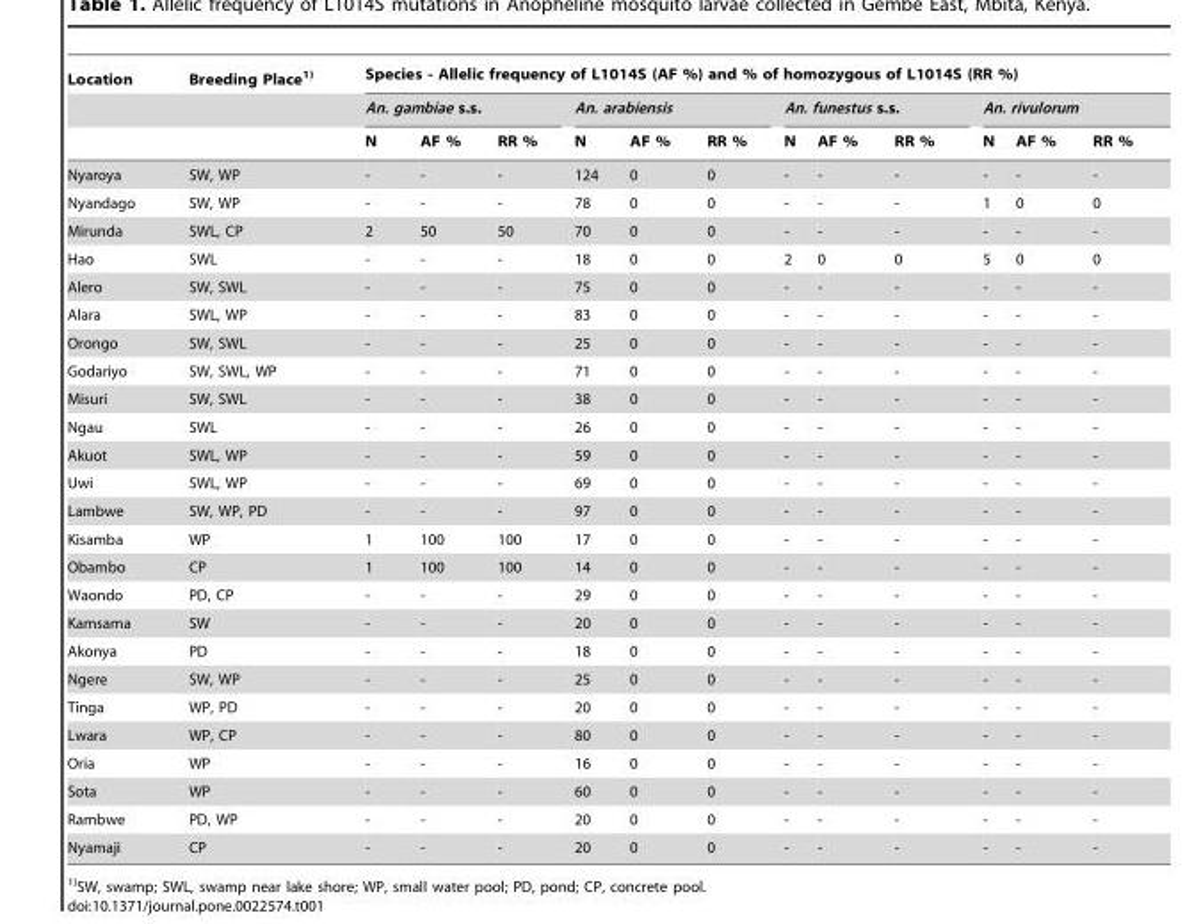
<table><thead><tr><td rowspan="3">Location</td><td rowspan="3">Breeding Place1)</td><td colspan="12">Species - Allelic frequency of L1014S (AF %) and % of homozygous of L1014S (RR %)</td></tr><tr><td colspan="3">An. gambiae s.s.</td><td colspan="3">An. arabiensis</td><td colspan="3">An. funestus s.s.</td><td colspan="3">An. rivulorum</td></tr><tr><td>N</td><td>AF %</td><td>RR %</td><td>N</td><td>AF %</td><td>RR %</td><td>N</td><td>AF %</td><td>RR %</td><td>N</td><td>AF %</td><td>RR %</td></tr></thead><tbody><tr><td>Nyaroya</td><td>SW, WP</td><td>-</td><td>-</td><td>-</td><td>124</td><td>0</td><td>0</td><td>-</td><td>-</td><td>-</td><td>-</td><td>-</td><td>-</td></tr><tr><td>Nyandago</td><td>SW, WP</td><td>-</td><td>-</td><td>-</td><td>78</td><td>0</td><td>0</td><td>-</td><td>-</td><td>-</td><td>1</td><td>0</td><td>0</td></tr><tr><td>Mirunda</td><td>SWL, CP</td><td>2</td><td>50</td><td>50</td><td>70</td><td>0</td><td>0</td><td>-</td><td>-</td><td>-</td><td>-</td><td>-</td><td>-</td></tr><tr><td>Hao</td><td>SWL</td><td>-</td><td>-</td><td>-</td><td>18</td><td>0</td><td>0</td><td>2</td><td>0</td><td>0</td><td>5</td><td>0</td><td>0</td></tr><tr><td>Alero</td><td>SW, SWL</td><td>-</td><td>-</td><td>-</td><td>75</td><td>0</td><td>0</td><td>-</td><td>-</td><td>-</td><td>-</td><td>-</td><td>-</td></tr><tr><td>Alara</td><td>SWL, WP</td><td>-</td><td>-</td><td>-</td><td>83</td><td>0</td><td>0</td><td>-</td><td>-</td><td>-</td><td>-</td><td>-</td><td>-</td></tr><tr><td>Orongo</td><td>SW, SWL</td><td>-</td><td>-</td><td>-</td><td>25</td><td>0</td><td>0</td><td>-</td><td>-</td><td>-</td><td>-</td><td>-</td><td>-</td></tr><tr><td>Godariyo</td><td>SW, SWL, WP</td><td>-</td><td>-</td><td>-</td><td>71</td><td>0</td><td>0</td><td>-</td><td>-</td><td>-</td><td>-</td><td>-</td><td>-</td></tr><tr><td>Misuri</td><td>SW, SWL</td><td>-</td><td>-</td><td>-</td><td>38</td><td>0</td><td>0</td><td>-</td><td>-</td><td>-</td><td>-</td><td>-</td><td>-</td></tr><tr><td>Ngau</td><td>SWL</td><td>-</td><td>-</td><td>-</td><td>26</td><td>0</td><td>0</td><td>-</td><td>-</td><td>-</td><td>-</td><td>-</td><td>-</td></tr><tr><td>Akuot</td><td>SWL, WP</td><td>-</td><td>-</td><td>-</td><td>59</td><td>0</td><td>0</td><td>-</td><td>-</td><td>-</td><td>-</td><td>-</td><td>-</td></tr><tr><td>Uwi</td><td>SWL, WP</td><td>-</td><td>-</td><td>-</td><td>69</td><td>0</td><td>0</td><td>-</td><td>-</td><td>-</td><td>-</td><td>-</td><td>-</td></tr><tr><td>Lambwe</td><td>SW, WP, PD</td><td>-</td><td>-</td><td>-</td><td>97</td><td>0</td><td>0</td><td>-</td><td>-</td><td>-</td><td>-</td><td>-</td><td>-</td></tr><tr><td>Kisamba</td><td>WP</td><td>1</td><td>100</td><td>100</td><td>17</td><td>0</td><td>0</td><td>-</td><td>-</td><td>-</td><td>-</td><td>-</td><td>-</td></tr><tr><td>Obambo</td><td>CP</td><td>1</td><td>100</td><td>100</td><td>14</td><td>0</td><td>0</td><td>-</td><td>-</td><td>-</td><td>-</td><td>-</td><td>-</td></tr><tr><td>Waondo</td><td>PD, CP</td><td>-</td><td>-</td><td>-</td><td>29</td><td>0</td><td>0</td><td>-</td><td>-</td><td>-</td><td>-</td><td>-</td><td>-</td></tr><tr><td>Kamsama</td><td>SW</td><td>-</td><td>-</td><td>-</td><td>20</td><td>0</td><td>0</td><td>-</td><td>-</td><td>-</td><td>-</td><td>-</td><td>-</td></tr><tr><td>Akonya</td><td>PD</td><td>-</td><td>-</td><td>-</td><td>18</td><td>0</td><td>0</td><td>-</td><td>-</td><td>-</td><td>-</td><td>-</td><td>-</td></tr><tr><td>Ngere</td><td>SW, WP</td><td>-</td><td>-</td><td>-</td><td>25</td><td>0</td><td>0</td><td>-</td><td>-</td><td>-</td><td>-</td><td>-</td><td>-</td></tr><tr><td>Tinga</td><td>WP, PD</td><td>-</td><td>-</td><td>-</td><td>20</td><td>0</td><td>0</td><td>-</td><td>-</td><td>-</td><td>-</td><td>-</td><td>-</td></tr><tr><td>Lwara</td><td>WP, CP</td><td>-</td><td>-</td><td>-</td><td>80</td><td>0</td><td>0</td><td>-</td><td>-</td><td>-</td><td>-</td><td>-</td><td>-</td></tr><tr><td>Oria</td><td>WP</td><td>-</td><td>-</td><td>-</td><td>16</td><td>0</td><td>0</td><td>-</td><td>-</td><td>-</td><td>-</td><td>-</td><td>-</td></tr><tr><td>Sota</td><td>WP</td><td>-</td><td>-</td><td>-</td><td>60</td><td>0</td><td>0</td><td>-</td><td>-</td><td>-</td><td>-</td><td>-</td><td>-</td></tr><tr><td>Rambwe</td><td>PD, WP</td><td>-</td><td>-</td><td>-</td><td>20</td><td>0</td><td>0</td><td>-</td><td>-</td><td>-</td><td>-</td><td>-</td><td>-</td></tr><tr><td>Nyamaji</td><td>CP</td><td>-</td><td>-</td><td>-</td><td>20</td><td>0</td><td>0</td><td>-</td><td>-</td><td>-</td><td>-</td><td>-</td><td>-</td></tr></tbody></table>